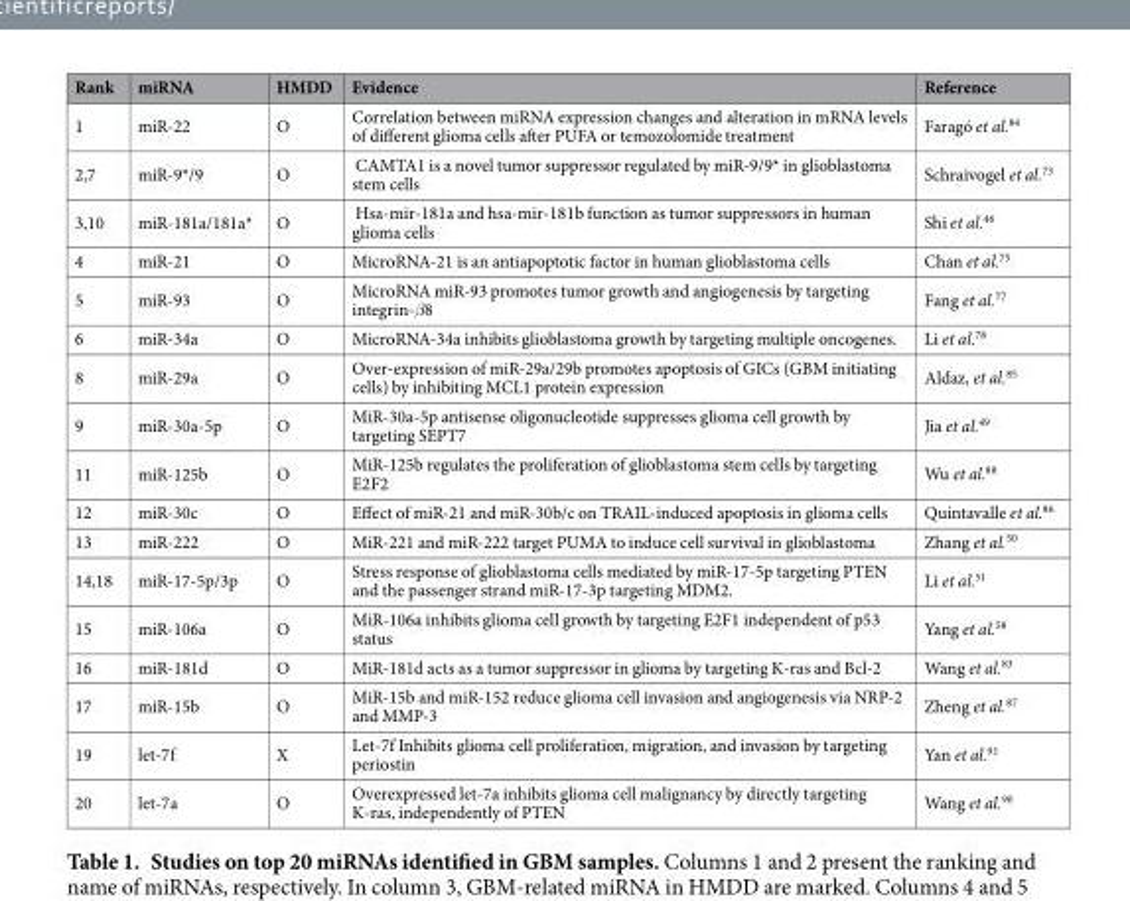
<table><thead><tr><td>Rank</td><td>miRNA</td><td>HMDD</td><td>Evidence</td><td>Reference</td></tr></thead><tbody><tr><td>1</td><td>miR-22</td><td>O</td><td>Correlation between miRNA expression changes and alteration in mRNA levels of different glioma cells after PUFA or temozolomide treatment</td><td>Faragó et al.<sup>84</sup></td></tr><tr><td>2,7</td><td>miR-9*/9</td><td>O</td><td>CAMTA1 is a novel tumor suppressor regulated by miR-9/9* in glioblastoma stem cells</td><td>Schraivogel et al.<sup>73</sup></td></tr><tr><td>3,10</td><td>miR-181a/181a*</td><td>O</td><td>Hsa-mir-181a and hsa-mir-181b function as tumor suppressors in human glioma cells</td><td>Shi et al.<sup>46</sup></td></tr><tr><td>4</td><td>miR-21</td><td>O</td><td>MicroRNA-21 is an antiapoptotic factor in human glioblastoma cells</td><td>Chan et al.<sup>75</sup></td></tr><tr><td>5</td><td>miR-93</td><td>O</td><td>MicroRNA miR-93 promotes tumor growth and angiogenesis by targeting integrin-β8</td><td>Fang et al.<sup>77</sup></td></tr><tr><td>6</td><td>miR-34a</td><td>O</td><td>MicroRNA-34a inhibits glioblastoma growth by targeting multiple oncogenes.</td><td>Li et al.<sup>78</sup></td></tr><tr><td>8</td><td>miR-29a</td><td>O</td><td>Over-expression of miR-29a/29b promotes apoptosis of GICs (GBM initiating cells) by inhibiting MCL1 protein expression</td><td>Aldaz, et al.<sup>85</sup></td></tr><tr><td>9</td><td>miR-30a-5p</td><td>O</td><td>MiR-30a-5p antisense oligonucleotide suppresses glioma cell growth by targeting SEPT7</td><td>Jia et al.<sup>49</sup></td></tr><tr><td>11</td><td>miR-125b</td><td>O</td><td>MiR-125b regulates the proliferation of glioblastoma stem cells by targeting E2F2</td><td>Wu et al.<sup>88</sup></td></tr><tr><td>12</td><td>miR-30c</td><td>O</td><td>Effect of miR-21 and miR-30b/c on TRAIL-induced apoptosis in glioma cells</td><td>Quintavalle et al.<sup>86</sup></td></tr><tr><td>13</td><td>miR-222</td><td>O</td><td>MiR-221 and miR-222 target PUMA to induce cell survival in glioblastoma</td><td>Zhang et al.<sup>50</sup></td></tr><tr><td>14,18</td><td>miR-17-5p/3p</td><td>O</td><td>Stress response of glioblastoma cells mediated by miR-17-5p targeting PTEN and the passenger strand miR-17-3p targeting MDM2.</td><td>Li et al.<sup>51</sup></td></tr><tr><td>15</td><td>miR-106a</td><td>O</td><td>MiR-106a inhibits glioma cell growth by targeting E2F1 independent of p53 status</td><td>Yang et al.<sup>58</sup></td></tr><tr><td>16</td><td>miR-181d</td><td>O</td><td>MiR-181d acts as a tumor suppressor in glioma by targeting K-ras and Bcl-2</td><td>Wang et al.<sup>83</sup></td></tr><tr><td>17</td><td>miR-15b</td><td>O</td><td>MiR-15b and miR-152 reduce glioma cell invasion and angiogenesis via NRP-2 and MMP-3</td><td>Zheng et al.<sup>87</sup></td></tr><tr><td>19</td><td>let-7f</td><td>X</td><td>Let-7f Inhibits glioma cell proliferation, migration, and invasion by targeting periostin</td><td>Yan et al.<sup>91</sup></td></tr><tr><td>20</td><td>let-7a</td><td>O</td><td>Overexpressed let-7a inhibits glioma cell malignancy by directly targeting K-ras, independently of PTEN</td><td>Wang et al.<sup>90</sup></td></tr></tbody></table>